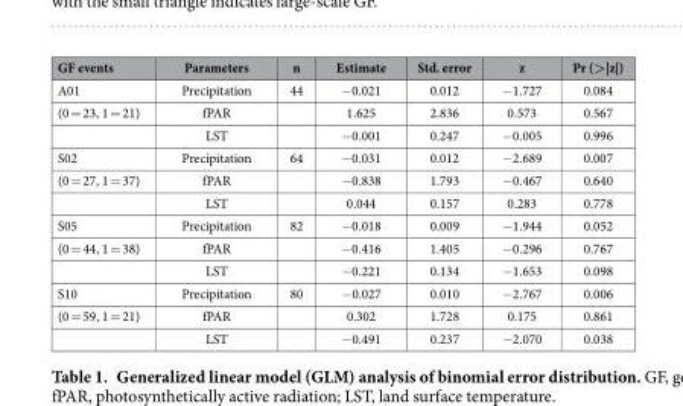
<table><thead><tr><td>GF events</td><td>Parameters</td><td>n</td><td>Estimate</td><td>Std. error</td><td>z</td><td>Pr (&gt;|z|)</td></tr></thead><tbody><tr><td>A01</td><td>Precipitation</td><td>44</td><td>− 0.021</td><td>0.012</td><td>− 1.727</td><td>0.084</td></tr><tr><td rowspan="2">(0 = 23, 1 = 21)</td><td>fPAR</td><td></td><td>1.625</td><td>2.836</td><td>0.573</td><td>0.567</td></tr><tr><td>LST</td><td></td><td>− 0.001</td><td>0.247</td><td>− 0.005</td><td>0.996</td></tr><tr><td>S02</td><td>Precipitation</td><td>64</td><td>− 0.031</td><td>0.012</td><td>− 2.689</td><td>0.007</td></tr><tr><td rowspan="2">(0 = 27, 1 = 37)</td><td>fPAR</td><td></td><td>− 0.838</td><td>1.793</td><td>− 0.467</td><td>0.640</td></tr><tr><td>LST</td><td></td><td>0.044</td><td>0.157</td><td>0.283</td><td>0.778</td></tr><tr><td>S05</td><td>Precipitation</td><td>82</td><td>− 0.018</td><td>0.009</td><td>− 1.944</td><td>0.052</td></tr><tr><td rowspan="2">(0 = 44, 1 = 38)</td><td>fPAR</td><td></td><td>− 0.416</td><td>1.405</td><td>− 0.296</td><td>0.767</td></tr><tr><td>LST</td><td></td><td>− 0.221</td><td>0.134</td><td>− 1.653</td><td>0.098</td></tr><tr><td>S10</td><td>Precipitation</td><td>80</td><td>− 0.027</td><td>0.010</td><td>− 2.767</td><td>0.006</td></tr><tr><td rowspan="2">(0 = 59, 1 = 21)</td><td>fPAR</td><td></td><td>0.302</td><td>1.728</td><td>0.175</td><td>0.861</td></tr><tr><td>LST</td><td></td><td>− 0.491</td><td>0.237</td><td>− 2.070</td><td>0.038</td></tr></tbody></table>